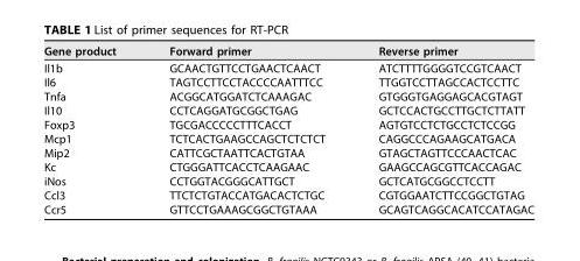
<table><thead><tr><td>Gene product</td><td>Forward primer</td><td>Reverse primer</td></tr></thead><tbody><tr><td>Il1b</td><td>GCAACTGTTCCTGAACTCAACT</td><td>ATCTTTTGGGGTCCGTCAACT</td></tr><tr><td>Il6</td><td>TAGTCCTTCCTACCCCAATTTCC</td><td>TTGGTCCTTAGCCACTCCTTC</td></tr><tr><td>Tnfa</td><td>ACGGCATGGATCTCAAAGAC</td><td>GTGGGTGAGGAGCACGTAGT</td></tr><tr><td>Il10</td><td>CCTCAGGATGCGGCTGAG</td><td>GCTCCACTGCCTTGCTCTTATT</td></tr><tr><td>Foxp3</td><td>TGCGACCCCCTTTCACCT</td><td>AGTGTCCTCTGCCTCTCCGG</td></tr><tr><td>Mcp1</td><td>TCTCACTGAAGCCAGCTCTCTCT</td><td>CAGGCCCAGAAGCATGACA</td></tr><tr><td>Mip2</td><td>CATTCGCTAATTCACTGTAA</td><td>GTAGCTAGTTCCCAACTCAC</td></tr><tr><td>Kc</td><td>CTGGGATTCACCTCAAGAAC</td><td>GAAGCCAGCGTTCACCAGAC</td></tr><tr><td>iNos</td><td>CCTGGTACGGGCATTGCT</td><td>GCTCATGCGGCCTCCTT</td></tr><tr><td>Ccl3</td><td>TTCTCTGTACCATGACACTCTGC</td><td>CGTGGAATCTTCCGGCTGTAG</td></tr><tr><td>Ccr5</td><td>GTTCCTGAAAGCGGCTGTAAA</td><td>GCAGTCAGGCACATCCATAGAC</td></tr></tbody></table>